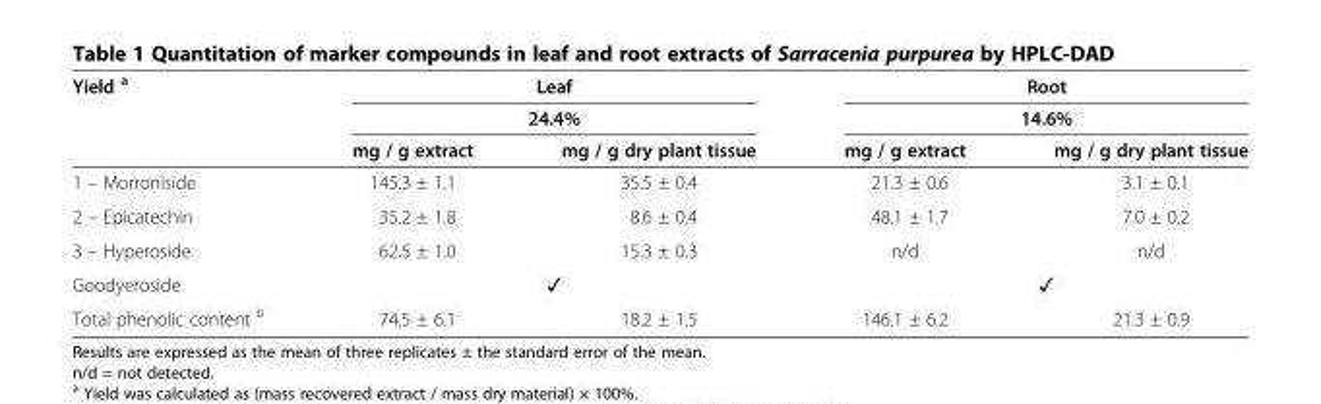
<table><thead><tr><td rowspan="3">Yield <sup>a</sup></td><td rowspan="2" colspan="2">Leaf 24.4%</td><td rowspan="2" colspan="2">Root 14.6%</td></tr><tr></tr><tr><td>mg / g extract</td><td>mg / g dry plant tissue</td><td>mg / g extract</td><td>mg / g dry plant tissue</td></tr></thead><tbody><tr><td>1 – Morroniside</td><td>145.3 ± 1.1</td><td>35.5 ± 0.4</td><td>21.3 ± 0.6</td><td>3.1 ± 0.1</td></tr><tr><td>2 – Epicatechin</td><td>35.2 ± 1.8</td><td>8.6 ± 0.4</td><td>48.1 ± 1.7</td><td>7.0 ± 0.2</td></tr><tr><td>3 – Hyperoside</td><td>62.5 ± 1.0</td><td>15.3 ± 0.3</td><td>n/d</td><td>n/d</td></tr><tr><td>Goodyeroside</td><td colspan="2">✓</td><td colspan="2">✓</td></tr><tr><td>Total phenolic content <sup>b</sup></td><td>74.5 ± 6.1</td><td>18.2 ± 1.5</td><td>146.1 ± 6.2</td><td>21.3 ± 0.9</td></tr></tbody></table>